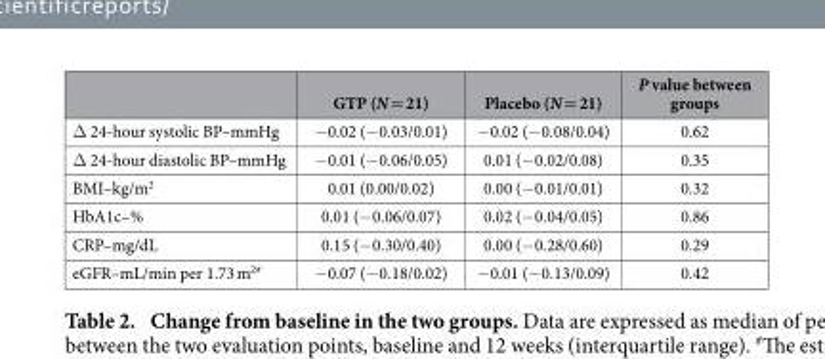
<table><thead><tr><td></td><td>GTP (N = 21)</td><td>Placebo (N = 21)</td><td>P value between groups</td></tr></thead><tbody><tr><td>Δ 24-hour systolic BP–mmHg</td><td>− 0.02 (− 0.03/0.01)</td><td>− 0.02 (− 0.08/0.04)</td><td>0.62</td></tr><tr><td>Δ 24-hour diastolic BP–mmHg</td><td>− 0.01 (− 0.06/0.05)</td><td>0.01 (− 0.02/0.08)</td><td>0.35</td></tr><tr><td>BMI–kg/m<sup>2</sup></td><td>0.01 (0.00/0.02)</td><td>0.00 (− 0.01/0.01)</td><td>0.32</td></tr><tr><td>HbA1c–%</td><td>0.01 (− 0.06/0.07)</td><td>0.02 (− 0.04/0.05)</td><td>0.86</td></tr><tr><td>CRP–mg/dL</td><td>0.15 (− 0.30/0.40)</td><td>0.00 (− 0.28/0.60)</td><td>0.29</td></tr><tr><td>eGFR–mL/min per 1.73 m<sup>2#</sup></td><td>− 0.07 (− 0.18/0.02)</td><td>− 0.01 (− 0.13/0.09)</td><td>0.42</td></tr></tbody></table>